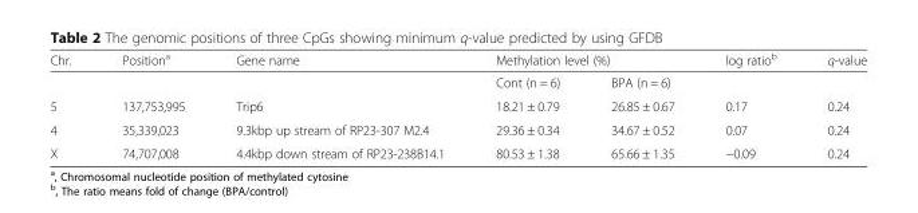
<table><thead><tr><td rowspan="2">Chr.</td><td rowspan="2">Position<sup>a</sup></td><td rowspan="2">Gene name</td><td colspan="2">Methylation level (%)</td><td rowspan="2">log ratio<sup>b</sup></td><td rowspan="2">q-value</td></tr><tr><td>Cont (n = 6)</td><td>BPA (n = 6)</td></tr></thead><tbody><tr><td>5</td><td>137,753,995</td><td>Trip6</td><td>18.21 ± 0.79</td><td>26.85 ± 0.67</td><td>0.17</td><td>0.24</td></tr><tr><td>4</td><td>35,339,023</td><td>9.3kbp up stream of RP23-307 M2.4</td><td>29.36 ± 0.34</td><td>34.67 ± 0.52</td><td>0.07</td><td>0.24</td></tr><tr><td>X</td><td>74,707,008</td><td>4.4kbp down stream of RP23-238B14.1</td><td>80.53 ± 1.38</td><td>65.66 ± 1.35</td><td>−0.09</td><td>0.24</td></tr></tbody></table>